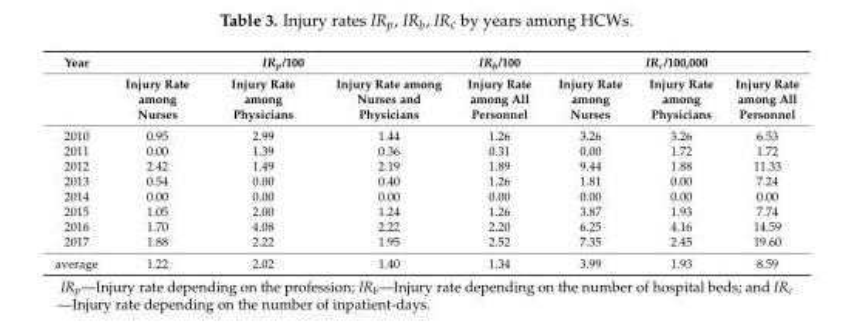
<table><thead><tr><td rowspan="2">Year</td><td colspan="3">IR<sub>p</sub>/100</td><td rowspan="2">IR<sub>b</sub>/100 Injury Rate among All Personnel</td><td colspan="3">IR<sub>c</sub>/100,000</td></tr><tr><td>Injury Rate among Nurses</td><td>Injury Rate among Physicians</td><td>Injury Rate among Nurses and Physicians</td><td>Injury Rate among Nurses</td><td>Injury Rate among Physicians</td><td>Injury Rate among All Personnel</td></tr></thead><tbody><tr><td>2010</td><td>0.95</td><td>2.99</td><td>1.44</td><td>1.26</td><td>3.26</td><td>3.26</td><td>6.53</td></tr><tr><td>2011</td><td>0.00</td><td>1.39</td><td>0.36</td><td>0.31</td><td>0.00</td><td>1.72</td><td>1.72</td></tr><tr><td>2012</td><td>2.42</td><td>1.49</td><td>2.19</td><td>1.89</td><td>9.44</td><td>1.88</td><td>11.33</td></tr><tr><td>2013</td><td>0.54</td><td>0.00</td><td>0.40</td><td>1.26</td><td>1.81</td><td>0.00</td><td>7.24</td></tr><tr><td>2014</td><td>0.00</td><td>0.00</td><td>0.00</td><td>0.00</td><td>0.00</td><td>0.00</td><td>0.00</td></tr><tr><td>2015</td><td>1.05</td><td>2.00</td><td>1.24</td><td>1.26</td><td>3.87</td><td>1.93</td><td>7.74</td></tr><tr><td>2016</td><td>1.70</td><td>4.08</td><td>2.22</td><td>2.20</td><td>6.25</td><td>4.16</td><td>14.59</td></tr><tr><td>2017</td><td>1.88</td><td>2.22</td><td>1.95</td><td>2.52</td><td>7.35</td><td>2.45</td><td>19.60</td></tr><tr><td>average</td><td>1.22</td><td>2.02</td><td>1.40</td><td>1.34</td><td>3.99</td><td>1.93</td><td>8.59</td></tr></tbody></table>